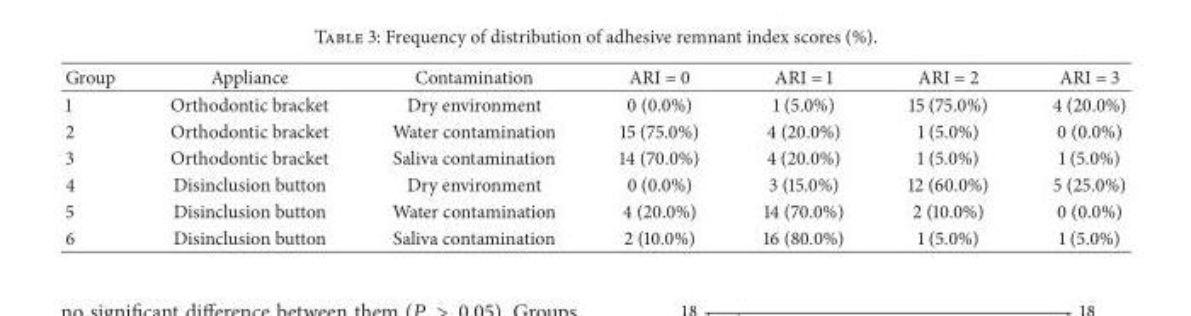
<table><thead><tr><td>Group</td><td>Appliance</td><td>Contamination</td><td>ARI = 0</td><td>ARI = 1</td><td>ARI = 2</td><td>ARI = 3</td></tr></thead><tbody><tr><td>1</td><td>Orthodontic bracket</td><td>Dry environment</td><td>0 (0.0%)</td><td>1 (5.0%)</td><td>15 (75.0%)</td><td>4 (20.0%)</td></tr><tr><td>2</td><td>Orthodontic bracket</td><td>Water contamination</td><td>15 (75.0%)</td><td>4 (20.0%)</td><td>1 (5.0%)</td><td>0 (0.0%)</td></tr><tr><td>3</td><td>Orthodontic bracket</td><td>Saliva contamination</td><td>14 (70.0%)</td><td>4 (20.0%)</td><td>1 (5.0%)</td><td>1 (5.0%)</td></tr><tr><td>4</td><td>Disinclusion button</td><td>Dry environment</td><td>0 (0.0%)</td><td>3 (15.0%)</td><td>12 (60.0%)</td><td>5 (25.0%)</td></tr><tr><td>5</td><td>Disinclusion button</td><td>Water contamination</td><td>4 (20.0%)</td><td>14 (70.0%)</td><td>2 (10.0%)</td><td>0 (0.0%)</td></tr><tr><td>6</td><td>Disinclusion button</td><td>Saliva contamination</td><td>2 (10.0%)</td><td>16 (80.0%)</td><td>1 (5.0%)</td><td>1 (5.0%)</td></tr></tbody></table>